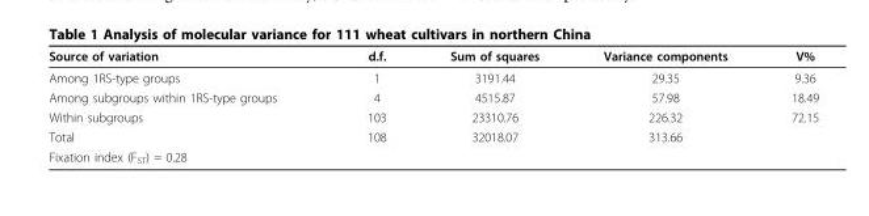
<table><thead><tr><td>Source of variation</td><td>d.f.</td><td>Sum of squares</td><td>Variance components</td><td>V%</td></tr></thead><tbody><tr><td>Among 1RS-type groups</td><td>1</td><td>3191.44</td><td>29.35</td><td>9.36</td></tr><tr><td>Among subgroups within 1RS-type groups</td><td>4</td><td>4515.87</td><td>57.98</td><td>18.49</td></tr><tr><td>Within subgroups</td><td>103</td><td>23310.76</td><td>226.32</td><td>72.15</td></tr><tr><td>Total</td><td>108</td><td>32018.07</td><td>313.66</td><td></td></tr><tr><td>Fixation index (F<sub>ST</sub>) = 0.28</td><td></td><td></td><td></td><td></td></tr></tbody></table>